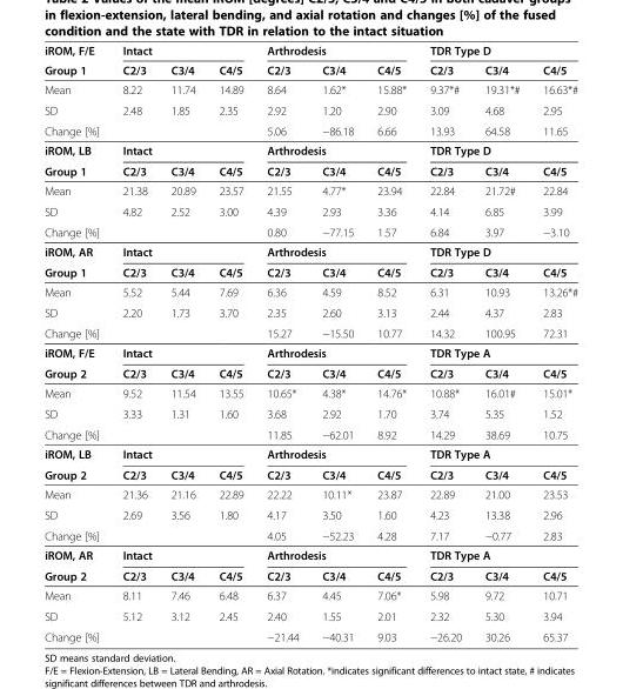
<table><thead><tr><td rowspan="2">iROM, F/E Group 1</td><td colspan="3">Intact</td><td colspan="3">Arthrodesis</td><td colspan="3">TDR Type D</td></tr><tr><td>C2/3</td><td>C3/4</td><td>C4/5</td><td>C2/3</td><td>C3/4</td><td>C4/5</td><td>C2/3</td><td>C3/4</td><td>C4/5</td></tr></thead><tbody><tr><td>Mean</td><td>8.22</td><td>11.74</td><td>14.89</td><td>8.64</td><td>1.62*</td><td>15.88*</td><td>9.37*#</td><td>19.31*#</td><td>16.63*#</td></tr><tr><td>SD</td><td>2.48</td><td>1.85</td><td>2.35</td><td>2.92</td><td>1.20</td><td>2.90</td><td>3.09</td><td>4.68</td><td>2.95</td></tr><tr><td>Change [%]</td><td></td><td></td><td></td><td>5.06</td><td>−86.18</td><td>6.66</td><td>13.93</td><td>64.58</td><td>11.65</td></tr><tr><td>iROM, LB</td><td colspan="3">Intact</td><td colspan="3">Arthrodesis</td><td colspan="3">TDR Type D</td></tr><tr><td>Group 1</td><td>C2/3</td><td>C3/4</td><td>C4/5</td><td>C2/3</td><td>C3/4</td><td>C4/5</td><td>C2/3</td><td>C3/4</td><td>C4/5</td></tr><tr><td>Mean</td><td>21.38</td><td>20.89</td><td>23.57</td><td>21.55</td><td>4.77*</td><td>23.94</td><td>22.84</td><td>21.72#</td><td>22.84</td></tr><tr><td>SD</td><td>4.82</td><td>2.52</td><td>3.00</td><td>4.39</td><td>2.93</td><td>3.36</td><td>4.14</td><td>6.85</td><td>3.99</td></tr><tr><td>Change [%]</td><td></td><td></td><td></td><td>0.80</td><td>−77.15</td><td>1.57</td><td>6.84</td><td>3.97</td><td>−3.10</td></tr><tr><td>iROM, AR</td><td colspan="3">Intact</td><td colspan="3">Arthrodesis</td><td colspan="3">TDR Type D</td></tr><tr><td>Group 1</td><td>C2/3</td><td>C3/4</td><td>C4/5</td><td>C2/3</td><td>C3/4</td><td>C4/5</td><td>C2/3</td><td>C3/4</td><td>C4/5</td></tr><tr><td>Mean</td><td>5.52</td><td>5.44</td><td>7.69</td><td>6.36</td><td>4.59</td><td>8.52</td><td>6.31</td><td>10.93</td><td>13.26*#</td></tr><tr><td>SD</td><td>2.20</td><td>1.73</td><td>3.70</td><td>2.35</td><td>2.60</td><td>3.13</td><td>2.44</td><td>4.37</td><td>2.83</td></tr><tr><td>Change [%]</td><td></td><td></td><td></td><td>15.27</td><td>−15.50</td><td>10.77</td><td>14.32</td><td>100.95</td><td>72.31</td></tr><tr><td>iROM, F/E</td><td colspan="3">Intact</td><td colspan="3">Arthrodesis</td><td colspan="3">TDR Type A</td></tr><tr><td>Group 2</td><td>C2/3</td><td>C3/4</td><td>C4/5</td><td>C2/3</td><td>C3/4</td><td>C4/5</td><td>C2/3</td><td>C3/4</td><td>C4/5</td></tr><tr><td>Mean</td><td>9.52</td><td>11.54</td><td>13.55</td><td>10.65*</td><td>4.38*</td><td>14.76*</td><td>10.88*</td><td>16.01#</td><td>15.01*</td></tr><tr><td>SD</td><td>3.33</td><td>1.31</td><td>1.60</td><td>3.68</td><td>2.92</td><td>1.70</td><td>3.74</td><td>5.35</td><td>1.52</td></tr><tr><td>Change [%]</td><td></td><td></td><td></td><td>11.85</td><td>−62.01</td><td>8.92</td><td>14.29</td><td>38.69</td><td>10.75</td></tr><tr><td>iROM, LB</td><td colspan="3">Intact</td><td colspan="3">Arthrodesis</td><td colspan="3">TDR Type A</td></tr><tr><td>Group 2</td><td>C2/3</td><td>C3/4</td><td>C4/5</td><td>C2/3</td><td>C3/4</td><td>C4/5</td><td>C2/3</td><td>C3/4</td><td>C4/5</td></tr><tr><td>Mean</td><td>21.36</td><td>21.16</td><td>22.89</td><td>22.22</td><td>10.11*</td><td>23.87</td><td>22.89</td><td>21.00</td><td>23.53</td></tr><tr><td>SD</td><td>2.69</td><td>3.56</td><td>1.80</td><td>4.17</td><td>3.50</td><td>1.60</td><td>4.23</td><td>13.38</td><td>2.96</td></tr><tr><td>Change [%]</td><td></td><td></td><td></td><td>4.05</td><td>−52.23</td><td>4.28</td><td>7.17</td><td>−0.77</td><td>2.83</td></tr><tr><td>iROM, AR</td><td colspan="3">Intact</td><td colspan="3">Arthrodesis</td><td colspan="3">TDR Type A</td></tr><tr><td>Group 2</td><td>C2/3</td><td>C3/4</td><td>C4/5</td><td>C2/3</td><td>C3/4</td><td>C4/5</td><td>C2/3</td><td>C3/4</td><td>C4/5</td></tr><tr><td>Mean</td><td>8.11</td><td>7.46</td><td>6.48</td><td>6.37</td><td>4.45</td><td>7.06*</td><td>5.98</td><td>9.72</td><td>10.71</td></tr><tr><td>SD</td><td>5.12</td><td>3.12</td><td>2.45</td><td>2.40</td><td>1.55</td><td>2.01</td><td>2.32</td><td>5.30</td><td>3.94</td></tr><tr><td>Change [%]</td><td></td><td></td><td></td><td>−21.44</td><td>−40.31</td><td>9.03</td><td>−26.20</td><td>30.26</td><td>65.37</td></tr></tbody></table>